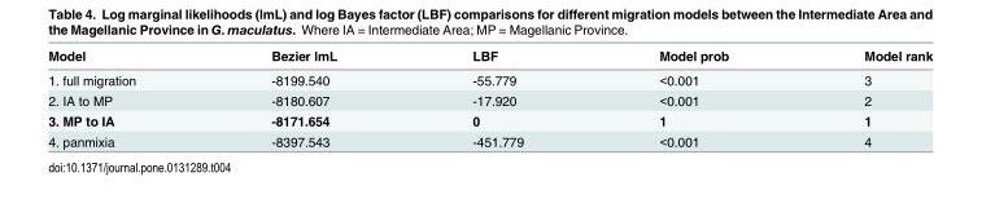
<table><thead><tr><td>Model</td><td>Bezier lmL</td><td>LBF</td><td>Model prob</td><td>Model rank</td></tr></thead><tbody><tr><td>1. full migration</td><td>-8199.540</td><td>-55.779</td><td>&lt;0.001</td><td>3</td></tr><tr><td>2. IA to MP</td><td>-8180.607</td><td>-17.920</td><td>&lt;0.001</td><td>2</td></tr><tr><td>3. MP to IA</td><td>-8171.654</td><td>0</td><td>1</td><td>1</td></tr><tr><td>4. panmixia</td><td>-8397.543</td><td>-451.779</td><td>&lt;0.001</td><td>4</td></tr></tbody></table>